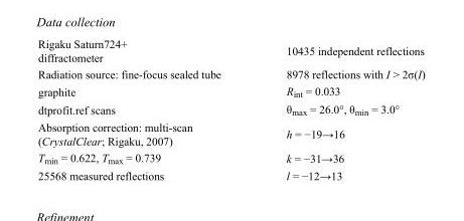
<table><tbody><tr><td>Rigaku Saturn724+ diffractometer</td><td>10435 independent reflections</td></tr><tr><td>Radiation source: fine-focus sealed tube</td><td>8978 reflections with I &gt; 2σ(I)</td></tr><tr><td>graphite</td><td>R<sub>int</sub> = 0.033</td></tr><tr><td>dtprofit.ref scans</td><td>θ<sub>max</sub> = 26.0°, θ<sub>min</sub> = 3.0°</td></tr><tr><td>Absorption correction: multi-scan (CrystalClear; Rigaku, 2007)</td><td>h = −19→16</td></tr><tr><td>T<sub>min</sub> = 0.622, T<sub>max</sub> = 0.739</td><td>k = −31→36</td></tr><tr><td>25568 measured reflections</td><td>l = −12→13</td></tr></tbody></table>